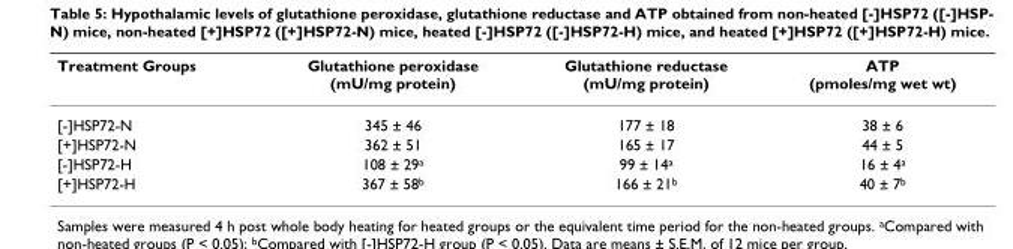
<table><thead><tr><td>Treatment Groups</td><td>Glutathione peroxidase (mU/mg protein)</td><td>Glutathione reductase (mU/mg protein)</td><td>ATP (pmoles/mg wet wt)</td></tr></thead><tbody><tr><td>[-]HSP72-N</td><td>345 ± 46</td><td>177 ± 18</td><td>38 ± 6</td></tr><tr><td>[+]HSP72-N</td><td>362 ± 51</td><td>165 ± 17</td><td>44 ± 5</td></tr><tr><td>[-]HSP72-H</td><td>108 ± 29<sup>a</sup></td><td>99 ± 14<sup>a</sup></td><td>16 ± 4<sup>a</sup></td></tr><tr><td>[+]HSP72-H</td><td>367 ± 58<sup>b</sup></td><td>166 ± 21<sup>b</sup></td><td>40 ± 7<sup>b</sup></td></tr></tbody></table>